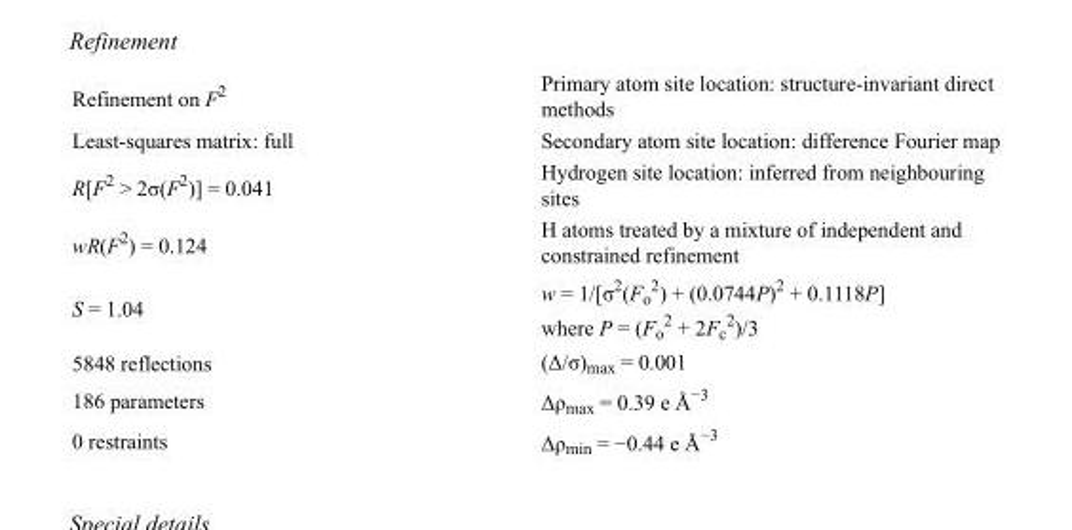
<table><tbody><tr><td>Refinement on F<sup>2</sup></td><td>Primary atom site location: structure-invariant direct methods</td></tr><tr><td>Least-squares matrix: full</td><td>Secondary atom site location: difference Fourier map</td></tr><tr><td>R[F<sup>2</sup> &gt; 2σ(F<sup>2</sup>)] = 0.041</td><td>Hydrogen site location: inferred from neighbouring sites</td></tr><tr><td>wR(F<sup>2</sup>) = 0.124</td><td>H atoms treated by a mixture of independent and constrained refinement</td></tr><tr><td>S = 1.04</td><td>w = 1/[σ<sup>2</sup>(F<sub>o</sub> <sup>2</sup>) + (0.0744P)<sup>2</sup> + 0.1118P] where P = (F<sub>o</sub> <sup>2</sup> + 2F<sub>c</sub> <sup>2</sup>)/3</td></tr><tr><td>5848 reflections</td><td>(Δ/σ)<sub>max</sub> = 0.001</td></tr><tr><td>186 parameters</td><td>Δρ<sub>max</sub> = 0.39 e Å<sup>−3</sup></td></tr><tr><td>0 restraints</td><td>Δρ<sub>min</sub> = −0.44 e Å<sup>−3</sup></td></tr></tbody></table>